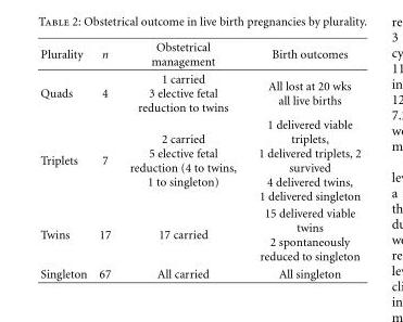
<table><thead><tr><td>Plurality</td><td>n</td><td>Obstetrical management</td><td>Birth outcomes</td></tr></thead><tbody><tr><td>Quads</td><td>4</td><td>1 carried 3 elective fetal reduction to twins</td><td>All lost at 20 wks all live births</td></tr><tr><td>Triplets</td><td>7</td><td>2 carried 5 elective fetal reduction (4 to twins, 1 to singleton)</td><td>1 delivered viable triplets, 1 delivered triplets, 2 survived 4 delivered twins, 1 delivered singleton</td></tr><tr><td>Twins</td><td>17</td><td>17 carried</td><td>15 delivered viable twins 2 spontaneously reduced to singleton</td></tr><tr><td>Singleton</td><td>67</td><td>All carried</td><td>All singleton</td></tr></tbody></table>